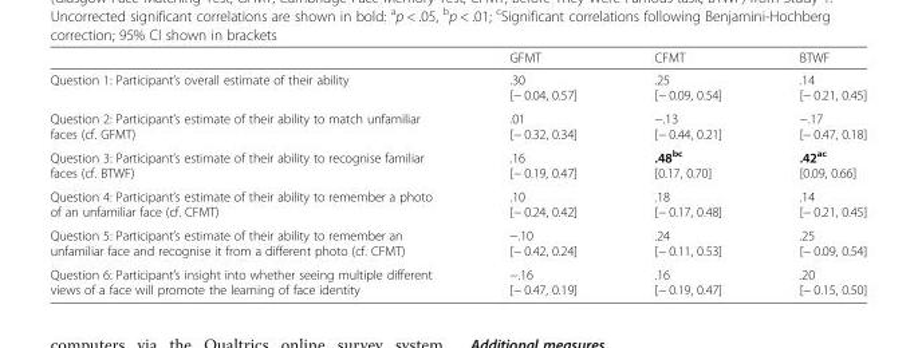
<table><thead><tr><td></td><td>GFMT</td><td>CFMT</td><td>BTWF</td></tr></thead><tbody><tr><td>Question 1: Participant’s overall estimate of their ability</td><td>.30 [− 0.04, 0.57]</td><td>.25 [− 0.09, 0.54]</td><td>.14 [− 0.21, 0.45]</td></tr><tr><td>Question 2: Participant’s estimate of their ability to match unfamiliar faces (cf. GFMT)</td><td>.01 [− 0.32, 0.34]</td><td>−.13 [− 0.44, 0.21]</td><td>−.17 [− 0.47, 0.18]</td></tr><tr><td>Question 3: Participant’s estimate of their ability to recognise familiar faces (cf. BTWF)</td><td>.16 [− 0.19, 0.47]</td><td>.48<sup>bc</sup> [0.17, 0.70]</td><td>.42<sup>ac</sup> [0.09, 0.66]</td></tr><tr><td>Question 4: Participant’s estimate of their ability to remember a photo of an unfamiliar face (cf. CFMT)</td><td>.10 [− 0.24, 0.42]</td><td>.18 [− 0.17, 0.48]</td><td>.14 [− 0.21, 0.45]</td></tr><tr><td>Question 5: Participant’s estimate of their ability to remember an unfamiliar face and recognise it from a different photo (cf. CFMT)</td><td>−.10 [− 0.42, 0.24]</td><td>.24 [− 0.11, 0.53]</td><td>.25 [− 0.09, 0.54]</td></tr><tr><td>Question 6: Participant’s insight into whether seeing multiple different views of a face will promote the learning of face identity</td><td>−.16 [− 0.47, 0.19]</td><td>.16 [− 0.19, 0.47]</td><td>.20 [− 0.15, 0.50]</td></tr></tbody></table>